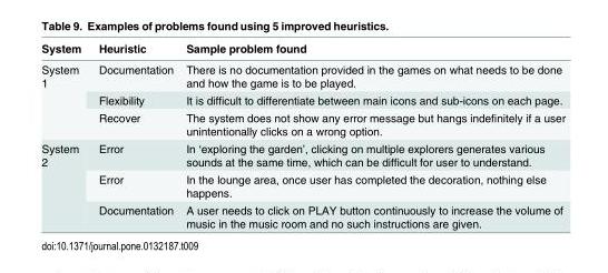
<table><thead><tr><td>System</td><td>Heuristic</td><td>Sample problem found</td></tr></thead><tbody><tr><td rowspan="3">System 1</td><td>Documentation</td><td>There is no documentation provided in the games on what needs to be done and how the game is to be played.</td></tr><tr><td>Flexibility</td><td>It is difficult to differentiate between main icons and sub-icons on each page.</td></tr><tr><td>Recover</td><td>The system does not show any error message but hangs indefinitely if a user unintentionally clicks on a wrong option.</td></tr><tr><td rowspan="3">System 2</td><td>Error</td><td>In ‘exploring the garden’, clicking on multiple explorers generates various sounds at the same time, which can be difficult for user to understand.</td></tr><tr><td>Error</td><td>In the lounge area, once user has completed the decoration, nothing else happens.</td></tr><tr><td>Documentation</td><td>A user needs to click on PLAY button continuously to increase the volume of music in the music room and no such instructions are given.</td></tr></tbody></table>